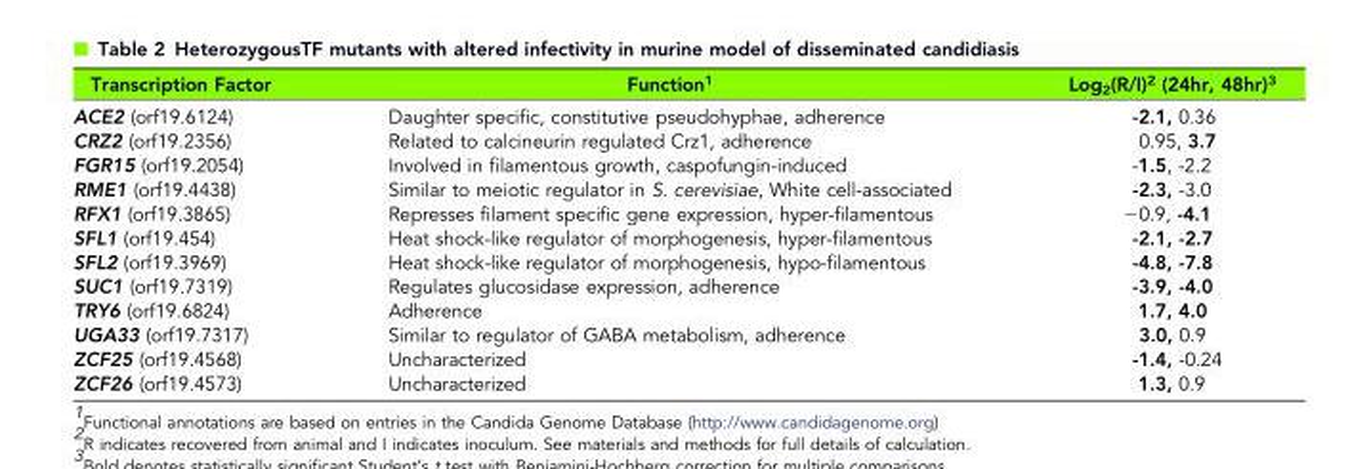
<table><thead><tr><td>Transcription Factor</td><td>Function<sup>1</sup></td><td>Log<sub>2</sub>(R/I)<sup>2</sup> (24hr, 48hr)<sup>3</sup></td></tr></thead><tbody><tr><td>ACE2 (orf19.6124)</td><td>Daughter specific, constitutive pseudohyphae, adherence</td><td>-2.1, 0.36</td></tr><tr><td>CRZ2 (orf19.2356)</td><td>Related to calcineurin regulated Crz1, adherence</td><td>0.95, 3.7</td></tr><tr><td>FGR15 (orf19.2054)</td><td>Involved in filamentous growth, caspofungin-induced</td><td>-1.5, -2.2</td></tr><tr><td>RME1 (orf19.4438)</td><td>Similar to meiotic regulator in S. cerevisiae, White cell-associated</td><td>-2.3, -3.0</td></tr><tr><td>RFX1 (orf19.3865)</td><td>Represses filament specific gene expression, hyper-filamentous</td><td>−0.9, -4.1</td></tr><tr><td>SFL1 (orf19.454)</td><td>Heat shock-like regulator of morphogenesis, hyper-filamentous</td><td>-2.1, -2.7</td></tr><tr><td>SFL2 (orf19.3969)</td><td>Heat shock-like regulator of morphogenesis, hypo-filamentous</td><td>-4.8, -7.8</td></tr><tr><td>SUC1 (orf19.7319)</td><td>Regulates glucosidase expression, adherence</td><td>-3.9, -4.0</td></tr><tr><td>TRY6 (orf19.6824)</td><td>Adherence</td><td>1.7, 4.0</td></tr><tr><td>UGA33 (orf19.7317)</td><td>Similar to regulator of GABA metabolism, adherence</td><td>3.0, 0.9</td></tr><tr><td>ZCF25 (orf19.4568)</td><td>Uncharacterized</td><td>-1.4, -0.24</td></tr><tr><td>ZCF26 (orf19.4573)</td><td>Uncharacterized</td><td>1.3, 0.9</td></tr></tbody></table>